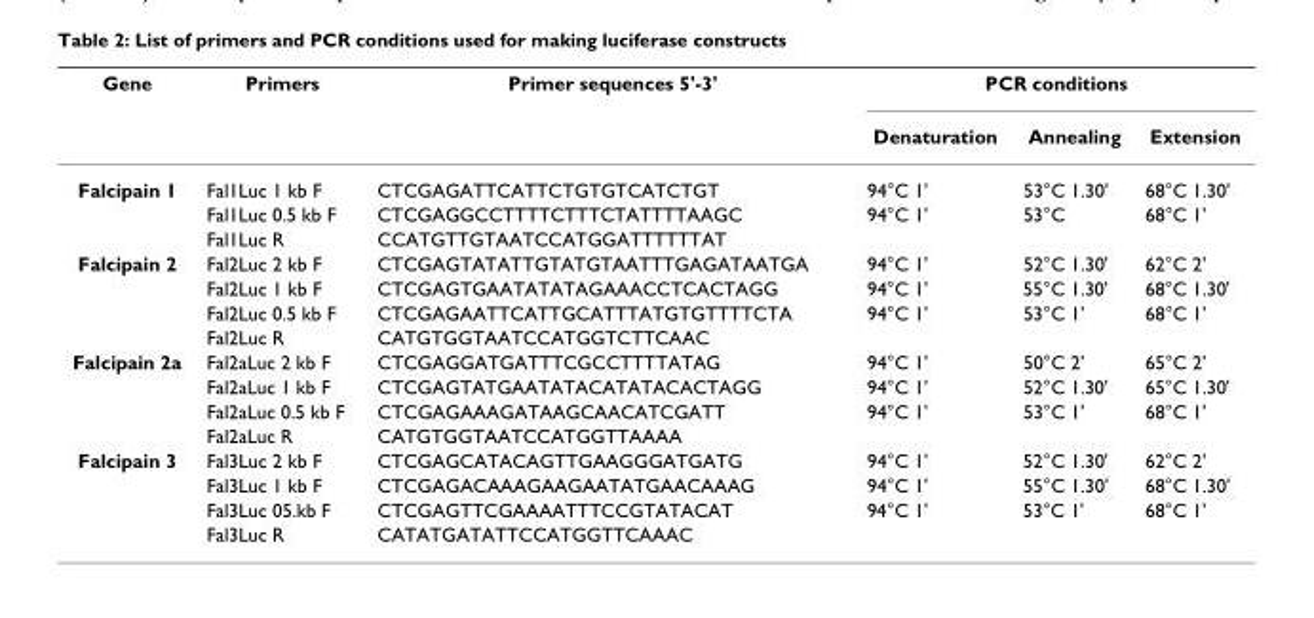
<table><thead><tr><td rowspan="2">Gene</td><td rowspan="2">Primers</td><td rowspan="2">Primer sequences 5&#x27;-3&#x27;</td><td colspan="3">PCR conditions</td></tr><tr><td>Denaturation</td><td>Annealing</td><td>Extension</td></tr></thead><tbody><tr><td rowspan="3">Falcipain 1</td><td>Fal1Luc 1 kb F</td><td>CTCGAGATTCATTCTGTGTCATCTGT</td><td>94°C 1&#x27;</td><td>53°C 1.30&#x27;</td><td>68°C 1.30&#x27;</td></tr><tr><td>Fal1Luc 0.5 kb F</td><td>CTCGAGGCCTTTTCTTTCTATTTTAAGC</td><td>94°C 1&#x27;</td><td>53°C</td><td>68°C 1&#x27;</td></tr><tr><td>Fal1Luc R</td><td>CCATGTTGTAATCCATGGATTTTTTAT</td><td></td><td></td><td></td></tr><tr><td rowspan="4">Falcipain 2</td><td>Fal2Luc 2 kb F</td><td>CTCGAGTATATTGTATGTAATTTGAGATAATGA</td><td>94°C 1&#x27;</td><td>52°C 1.30&#x27;</td><td>62°C 2&#x27;</td></tr><tr><td>Fal2Luc 1 kb F</td><td>CTCGAGTGAATATATAGAAACCTCACTAGG</td><td>94°C 1&#x27;</td><td>55°C 1.30&#x27;</td><td>68°C 1.30&#x27;</td></tr><tr><td>Fal2Luc 0.5 kb F</td><td>CTCGAGAATTCATTGCATTTATGTGTTTTCTA</td><td>94°C 1&#x27;</td><td>53°C 1&#x27;</td><td>68°C 1&#x27;</td></tr><tr><td>Fal2Luc R</td><td>CATGTGGTAATCCATGGTCTTCAAC</td><td></td><td></td><td></td></tr><tr><td rowspan="4">Falcipain 2a</td><td>Fal2aLuc 2 kb F</td><td>CTCGAGGATGATTTCGCCTTTTATAG</td><td>94°C 1&#x27;</td><td>50°C 2&#x27;</td><td>65°C 2&#x27;</td></tr><tr><td>Fal2aLuc 1 kb F</td><td>CTCGAGTATGAATATACATATACACTAGG</td><td>94°C 1&#x27;</td><td>52°C 1.30&#x27;</td><td>65°C 1.30&#x27;</td></tr><tr><td>Fal2aLuc 0.5 kb F</td><td>CTCGAGAAAGATAAGCAACATCGATT</td><td>94°C 1&#x27;</td><td>53°C 1&#x27;</td><td>68°C 1&#x27;</td></tr><tr><td>Fal2aLuc R</td><td>CATGTGGTAATCCATGGTTAAAA</td><td></td><td></td><td></td></tr><tr><td rowspan="4">Falcipain 3</td><td>Fal3Luc 2 kb F</td><td>CTCGAGCATACAGTTGAAGGGATGATG</td><td>94°C 1&#x27;</td><td>52°C 1.30&#x27;</td><td>62°C 2&#x27;</td></tr><tr><td>Fal3Luc 1 kb F</td><td>CTCGAGACAAAGAAGAATATGAACAAAG</td><td>94°C 1&#x27;</td><td>55°C 1.30&#x27;</td><td>68°C 1.30&#x27;</td></tr><tr><td>Fal3Luc 05.kb F</td><td>CTCGAGTTCGAAAATTTCCGTATACAT</td><td>94°C 1&#x27;</td><td>53°C 1&#x27;</td><td>68°C 1&#x27;</td></tr><tr><td>Fal3Luc R</td><td>CATATGATATTCCATGGTTCAAAC</td><td></td><td></td><td></td></tr></tbody></table>